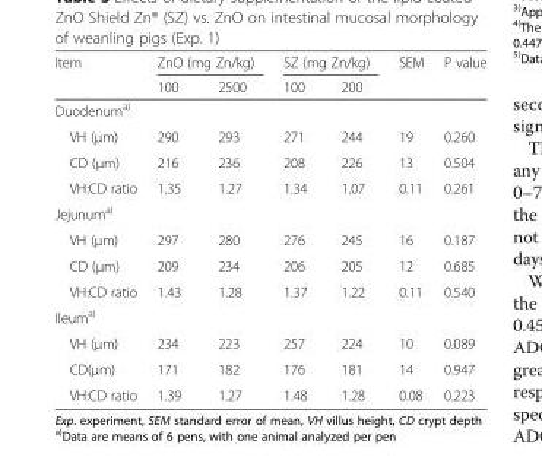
<table><thead><tr><td rowspan="2">Item</td><td colspan="2">ZnO (mg Zn/kg)</td><td colspan="2">SZ (mg Zn/kg)</td><td rowspan="2">SEM</td><td rowspan="2">P value</td></tr><tr><td>100</td><td>2500</td><td>100</td><td>200</td></tr></thead><tbody><tr><td colspan="7">Duodenum<sup>a)</sup></td></tr><tr><td>VH (μm)</td><td>290</td><td>293</td><td>271</td><td>244</td><td>19</td><td>0.260</td></tr><tr><td>CD (μm)</td><td>216</td><td>236</td><td>208</td><td>226</td><td>13</td><td>0.504</td></tr><tr><td>VH:CD ratio</td><td>1.35</td><td>1.27</td><td>1.34</td><td>1.07</td><td>0.11</td><td>0.261</td></tr><tr><td colspan="7">Jejunum<sup>a)</sup></td></tr><tr><td>VH (μm)</td><td>297</td><td>280</td><td>276</td><td>245</td><td>16</td><td>0.187</td></tr><tr><td>CD (μm)</td><td>209</td><td>234</td><td>206</td><td>205</td><td>12</td><td>0.685</td></tr><tr><td>VH:CD ratio</td><td>1.43</td><td>1.28</td><td>1.37</td><td>1.22</td><td>0.11</td><td>0.540</td></tr><tr><td colspan="7">Ileum<sup>a)</sup></td></tr><tr><td>VH (μm)</td><td>234</td><td>223</td><td>257</td><td>224</td><td>10</td><td>0.089</td></tr><tr><td>CD(μm)</td><td>171</td><td>182</td><td>176</td><td>181</td><td>14</td><td>0.947</td></tr><tr><td>VH:CD ratio</td><td>1.39</td><td>1.27</td><td>1.48</td><td>1.28</td><td>0.08</td><td>0.223</td></tr></tbody></table>